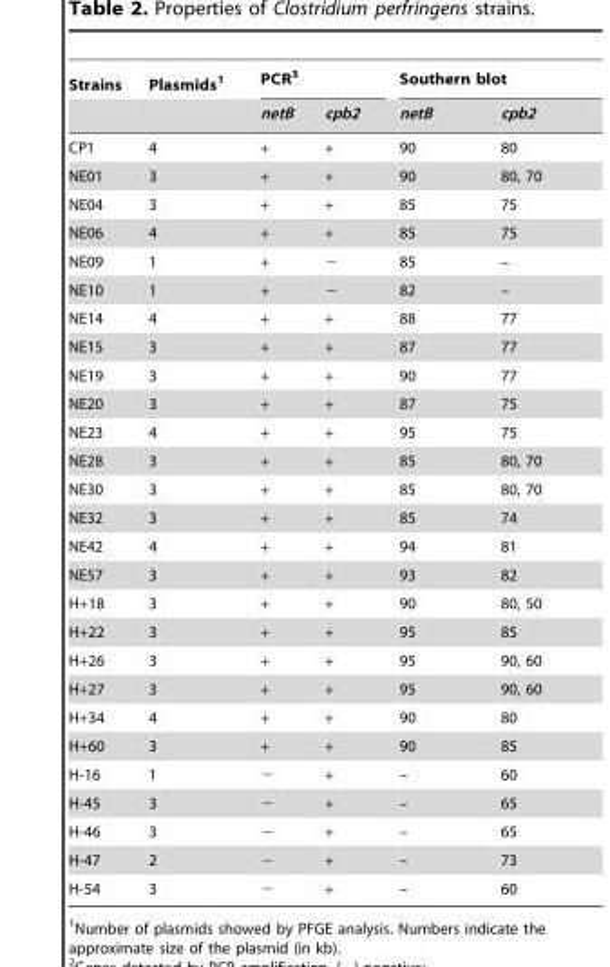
<table><thead><tr><td rowspan="2">Strains</td><td rowspan="2">Plasmids<sup>1</sup></td><td colspan="2">PCR<sup>3</sup></td><td colspan="2">Southern blot</td></tr><tr><td>netB</td><td>cpb2</td><td>netB</td><td>cpb2</td></tr></thead><tbody><tr><td>CP1</td><td>4</td><td>+</td><td>+</td><td>90</td><td>80</td></tr><tr><td>NE01</td><td>3</td><td>+</td><td>+</td><td>90</td><td>80, 70</td></tr><tr><td>NE04</td><td>3</td><td>+</td><td>+</td><td>85</td><td>75</td></tr><tr><td>NE06</td><td>4</td><td>+</td><td>+</td><td>85</td><td>75</td></tr><tr><td>NE09</td><td>1</td><td>+</td><td>−</td><td>85</td><td>–</td></tr><tr><td>NE10</td><td>1</td><td>+</td><td>−</td><td>82</td><td>–</td></tr><tr><td>NE14</td><td>4</td><td>+</td><td>+</td><td>88</td><td>77</td></tr><tr><td>NE15</td><td>3</td><td>+</td><td>+</td><td>87</td><td>77</td></tr><tr><td>NE19</td><td>3</td><td>+</td><td>+</td><td>90</td><td>77</td></tr><tr><td>NE20</td><td>3</td><td>+</td><td>+</td><td>87</td><td>75</td></tr><tr><td>NE23</td><td>4</td><td>+</td><td>+</td><td>95</td><td>75</td></tr><tr><td>NE28</td><td>3</td><td>+</td><td>+</td><td>85</td><td>80, 70</td></tr><tr><td>NE30</td><td>3</td><td>+</td><td>+</td><td>85</td><td>80, 70</td></tr><tr><td>NE32</td><td>3</td><td>+</td><td>+</td><td>85</td><td>74</td></tr><tr><td>NE42</td><td>4</td><td>+</td><td>+</td><td>94</td><td>81</td></tr><tr><td>NE57</td><td>3</td><td>+</td><td>+</td><td>93</td><td>82</td></tr><tr><td>H+18</td><td>3</td><td>+</td><td>+</td><td>90</td><td>80, 50</td></tr><tr><td>H+22</td><td>3</td><td>+</td><td>+</td><td>95</td><td>85</td></tr><tr><td>H+26</td><td>3</td><td>+</td><td>+</td><td>95</td><td>90, 60</td></tr><tr><td>H+27</td><td>3</td><td>+</td><td>+</td><td>95</td><td>90, 60</td></tr><tr><td>H+34</td><td>4</td><td>+</td><td>+</td><td>90</td><td>80</td></tr><tr><td>H+60</td><td>3</td><td>+</td><td>+</td><td>90</td><td>85</td></tr><tr><td>H-16</td><td>1</td><td>−</td><td>+</td><td>–</td><td>60</td></tr><tr><td>H-45</td><td>3</td><td>−</td><td>+</td><td>–</td><td>65</td></tr><tr><td>H-46</td><td>3</td><td>−</td><td>+</td><td>–</td><td>65</td></tr><tr><td>H-47</td><td>2</td><td>−</td><td>+</td><td>–</td><td>73</td></tr><tr><td>H-54</td><td>3</td><td>−</td><td>+</td><td>–</td><td>60</td></tr></tbody></table>